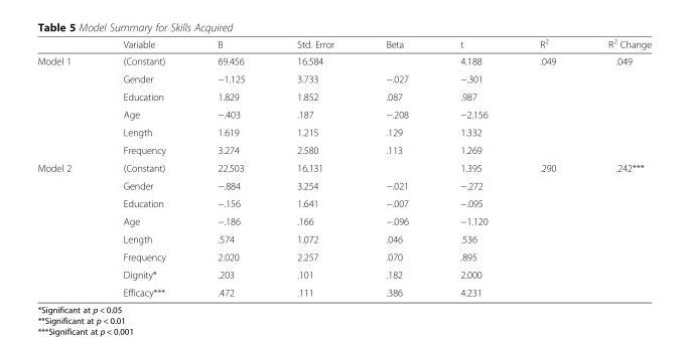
<table><thead><tr><td></td><td>Variable</td><td>B</td><td>Std. Error</td><td>Beta</td><td>t</td><td>R<sup>2</sup></td><td>R<sup>2</sup> Change</td></tr></thead><tbody><tr><td rowspan="6">Model 1</td><td>(Constant)</td><td>69.456</td><td>16.584</td><td></td><td>4.188</td><td>.049</td><td>.049</td></tr><tr><td>Gender</td><td>−1.125</td><td>3.733</td><td>−.027</td><td>−.301</td><td></td><td></td></tr><tr><td>Education</td><td>1.829</td><td>1.852</td><td>.087</td><td>.987</td><td></td><td></td></tr><tr><td>Age</td><td>−.403</td><td>.187</td><td>−.208</td><td>−2.156</td><td></td><td></td></tr><tr><td>Length</td><td>1.619</td><td>1.215</td><td>.129</td><td>1.332</td><td></td><td></td></tr><tr><td>Frequency</td><td>3.274</td><td>2.580</td><td>.113</td><td>1.269</td><td></td><td></td></tr><tr><td rowspan="8">Model 2</td><td>(Constant)</td><td>22.503</td><td>16.131</td><td></td><td>1.395</td><td>.290</td><td>.242***</td></tr><tr><td>Gender</td><td>−.884</td><td>3.254</td><td>−.021</td><td>−.272</td><td></td><td></td></tr><tr><td>Education</td><td>−.156</td><td>1.641</td><td>−.007</td><td>−.095</td><td></td><td></td></tr><tr><td>Age</td><td>−.186</td><td>.166</td><td>−.096</td><td>−1.120</td><td></td><td></td></tr><tr><td>Length</td><td>.574</td><td>1.072</td><td>.046</td><td>.536</td><td></td><td></td></tr><tr><td>Frequency</td><td>2.020</td><td>2.257</td><td>.070</td><td>.895</td><td></td><td></td></tr><tr><td>Dignity*</td><td>.203</td><td>.101</td><td>.182</td><td>2.000</td><td></td><td></td></tr><tr><td>Efficacy***</td><td>.472</td><td>.111</td><td>.386</td><td>4.231</td><td></td><td></td></tr></tbody></table>